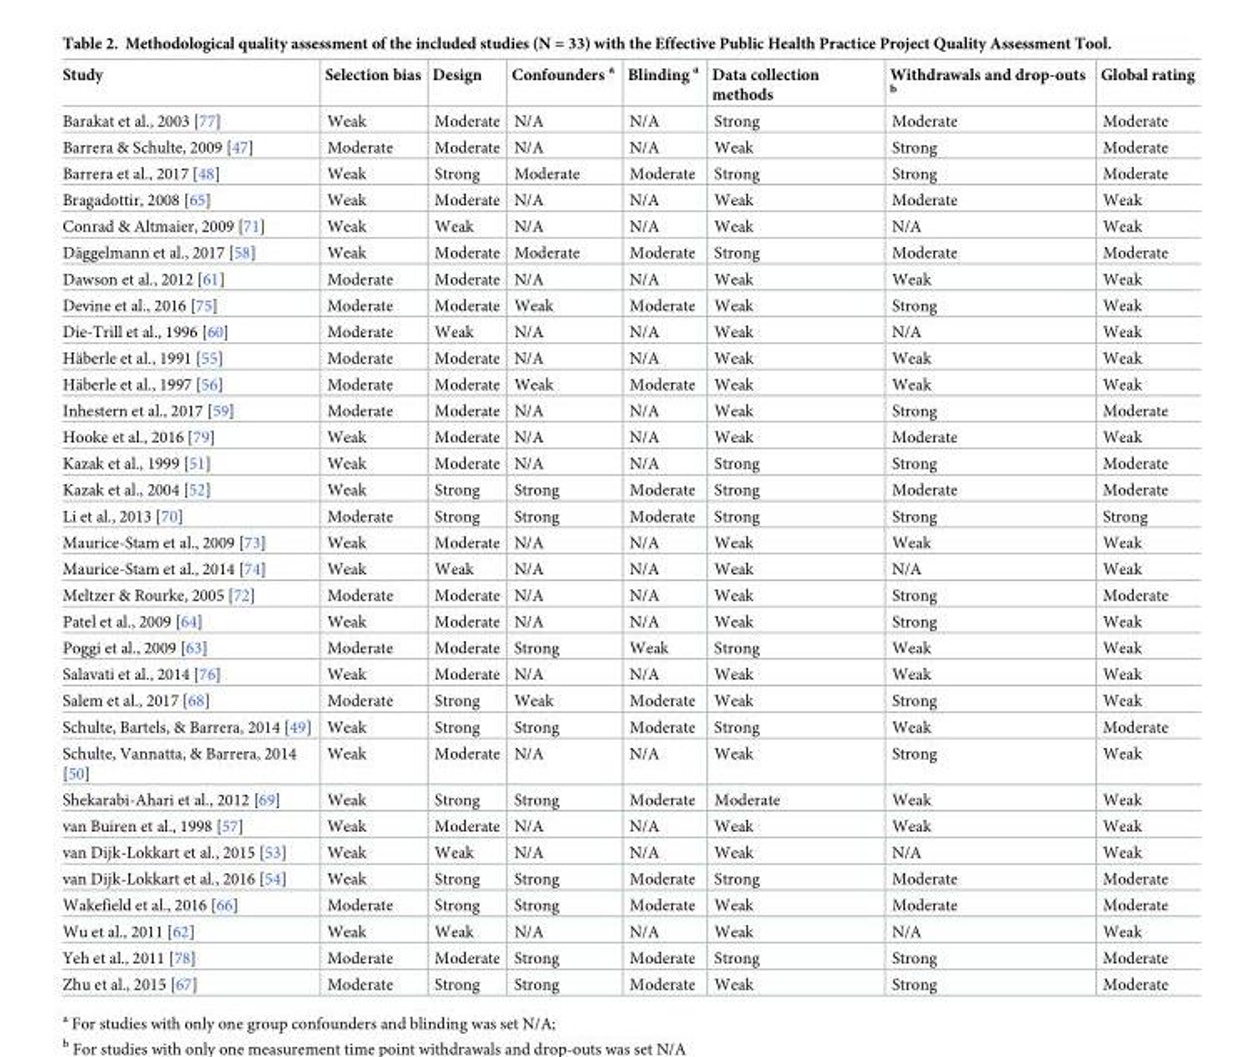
<table><thead><tr><td>Study</td><td>Selection bias</td><td>Design</td><td>Confounders <sup>a</sup></td><td>Blinding <sup>a</sup></td><td>Data collection methods</td><td>Withdrawals and drop-outs <sup>b</sup></td><td>Global rating</td></tr></thead><tbody><tr><td>Barakat et al., 2003 [77]</td><td>Weak</td><td>Moderate</td><td>N/A</td><td>N/A</td><td>Strong</td><td>Moderate</td><td>Moderate</td></tr><tr><td>Barrera &amp; Schulte, 2009 [47]</td><td>Moderate</td><td>Moderate</td><td>N/A</td><td>N/A</td><td>Weak</td><td>Strong</td><td>Moderate</td></tr><tr><td>Barrera et al., 2017 [48]</td><td>Weak</td><td>Strong</td><td>Moderate</td><td>Moderate</td><td>Strong</td><td>Strong</td><td>Moderate</td></tr><tr><td>Bragadottir, 2008 [65]</td><td>Weak</td><td>Moderate</td><td>N/A</td><td>N/A</td><td>Weak</td><td>Moderate</td><td>Weak</td></tr><tr><td>Conrad &amp; Altmaier, 2009 [71]</td><td>Weak</td><td>Weak</td><td>N/A</td><td>N/A</td><td>Weak</td><td>N/A</td><td>Weak</td></tr><tr><td>Da¨ggelmann et al., 2017 [58]</td><td>Weak</td><td>Moderate</td><td>Moderate</td><td>Moderate</td><td>Strong</td><td>Moderate</td><td>Moderate</td></tr><tr><td>Dawson et al., 2012 [61]</td><td>Moderate</td><td>Moderate</td><td>N/A</td><td>N/A</td><td>Weak</td><td>Weak</td><td>Weak</td></tr><tr><td>Devine et al., 2016 [75]</td><td>Moderate</td><td>Moderate</td><td>Weak</td><td>Moderate</td><td>Weak</td><td>Strong</td><td>Weak</td></tr><tr><td>Die-Trill et al., 1996 [60]</td><td>Moderate</td><td>Weak</td><td>N/A</td><td>N/A</td><td>Weak</td><td>N/A</td><td>Weak</td></tr><tr><td>Ha¨berle et al., 1991 [55]</td><td>Moderate</td><td>Moderate</td><td>N/A</td><td>N/A</td><td>Weak</td><td>Weak</td><td>Weak</td></tr><tr><td>Ha¨berle et al., 1997 [56]</td><td>Moderate</td><td>Moderate</td><td>Weak</td><td>Moderate</td><td>Weak</td><td>Weak</td><td>Weak</td></tr><tr><td>Inhestern et al., 2017 [59]</td><td>Moderate</td><td>Moderate</td><td>N/A</td><td>N/A</td><td>Weak</td><td>Strong</td><td>Moderate</td></tr><tr><td>Hooke et al., 2016 [79]</td><td>Weak</td><td>Moderate</td><td>N/A</td><td>N/A</td><td>Weak</td><td>Moderate</td><td>Weak</td></tr><tr><td>Kazak et al., 1999 [51]</td><td>Weak</td><td>Moderate</td><td>N/A</td><td>N/A</td><td>Strong</td><td>Strong</td><td>Moderate</td></tr><tr><td>Kazak et al., 2004 [52]</td><td>Weak</td><td>Strong</td><td>Strong</td><td>Moderate</td><td>Strong</td><td>Moderate</td><td>Moderate</td></tr><tr><td>Li et al., 2013 [70]</td><td>Moderate</td><td>Strong</td><td>Strong</td><td>Moderate</td><td>Strong</td><td>Strong</td><td>Strong</td></tr><tr><td>Maurice-Stam et al., 2009 [73]</td><td>Weak</td><td>Moderate</td><td>N/A</td><td>N/A</td><td>Weak</td><td>Weak</td><td>Weak</td></tr><tr><td>Maurice-Stam et al., 2014 [74]</td><td>Weak</td><td>Weak</td><td>N/A</td><td>N/A</td><td>Weak</td><td>N/A</td><td>Weak</td></tr><tr><td>Meltzer &amp; Rourke, 2005 [72]</td><td>Moderate</td><td>Moderate</td><td>N/A</td><td>N/A</td><td>Weak</td><td>Strong</td><td>Moderate</td></tr><tr><td>Patel et al., 2009 [64]</td><td>Weak</td><td>Moderate</td><td>N/A</td><td>N/A</td><td>Weak</td><td>Strong</td><td>Weak</td></tr><tr><td>Poggi et al., 2009 [63]</td><td>Moderate</td><td>Moderate</td><td>Strong</td><td>Weak</td><td>Strong</td><td>Weak</td><td>Weak</td></tr><tr><td>Salavati et al., 2014 [76]</td><td>Weak</td><td>Moderate</td><td>N/A</td><td>N/A</td><td>Weak</td><td>Weak</td><td>Weak</td></tr><tr><td>Salem et al., 2017 [68]</td><td>Moderate</td><td>Strong</td><td>Weak</td><td>Moderate</td><td>Weak</td><td>Strong</td><td>Weak</td></tr><tr><td>Schulte, Bartels, &amp; Barrera, 2014 [49]</td><td>Weak</td><td>Strong</td><td>Strong</td><td>Moderate</td><td>Strong</td><td>Weak</td><td>Moderate</td></tr><tr><td>Schulte, Vannatta, &amp; Barrera, 2014 [50]</td><td>Weak</td><td>Moderate</td><td>N/A</td><td>N/A</td><td>Weak</td><td>Strong</td><td>Weak</td></tr><tr><td>Shekarabi-Ahari et al., 2012 [69]</td><td>Weak</td><td>Strong</td><td>Strong</td><td>Moderate</td><td>Moderate</td><td>Weak</td><td>Weak</td></tr><tr><td>van Buiren et al., 1998 [57]</td><td>Weak</td><td>Moderate</td><td>N/A</td><td>N/A</td><td>Weak</td><td>Weak</td><td>Weak</td></tr><tr><td>van Dijk-Lokkart et al., 2015 [53]</td><td>Weak</td><td>Weak</td><td>N/A</td><td>N/A</td><td>Weak</td><td>N/A</td><td>Weak</td></tr><tr><td>van Dijk-Lokkart et al., 2016 [54]</td><td>Weak</td><td>Strong</td><td>Strong</td><td>Moderate</td><td>Strong</td><td>Moderate</td><td>Moderate</td></tr><tr><td>Wakefield et al., 2016 [66]</td><td>Moderate</td><td>Strong</td><td>Strong</td><td>Moderate</td><td>Weak</td><td>Moderate</td><td>Moderate</td></tr><tr><td>Wu et al., 2011 [62]</td><td>Weak</td><td>Weak</td><td>N/A</td><td>N/A</td><td>Weak</td><td>N/A</td><td>Weak</td></tr><tr><td>Yeh et al., 2011 [78]</td><td>Moderate</td><td>Moderate</td><td>Strong</td><td>Moderate</td><td>Strong</td><td>Strong</td><td>Moderate</td></tr><tr><td>Zhu et al., 2015 [67]</td><td>Moderate</td><td>Strong</td><td>Strong</td><td>Moderate</td><td>Weak</td><td>Strong</td><td>Moderate</td></tr></tbody></table>